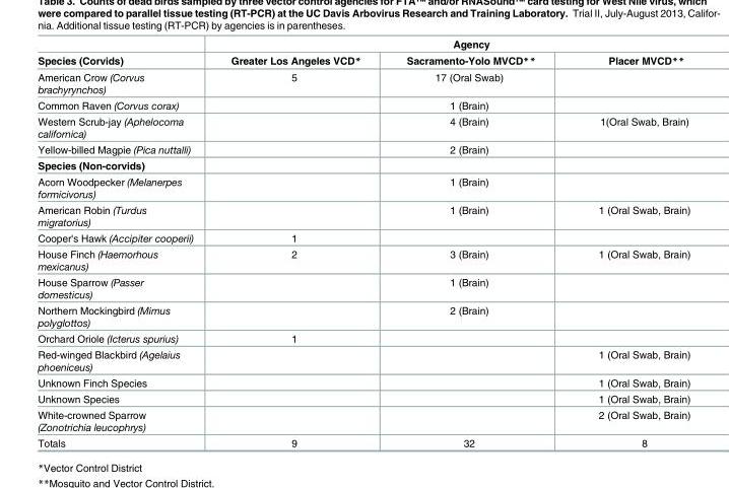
<table><thead><tr><td rowspan="2">Species (Corvids)</td><td colspan="3">Agency</td></tr><tr><td>Greater Los Angeles VCD*</td><td>Sacramento-Yolo MVCD**</td><td>Placer MVCD**</td></tr></thead><tbody><tr><td>American Crow (Corvus brachyrynchos)</td><td>5</td><td>17 (Oral Swab)</td><td></td></tr><tr><td>Common Raven (Corvus corax)</td><td></td><td>1 (Brain)</td><td></td></tr><tr><td>Western Scrub-jay (Aphelocoma californica)</td><td></td><td>4 (Brain)</td><td>1(Oral Swab, Brain)</td></tr><tr><td>Yellow-billed Magpie (Pica nuttalli)</td><td></td><td>2 (Brain)</td><td></td></tr><tr><td colspan="4">Species (Non-corvids)</td></tr><tr><td>Acorn Woodpecker (Melanerpes formicivorus)</td><td></td><td>1 (Brain)</td><td></td></tr><tr><td>American Robin (Turdus migratorius)</td><td></td><td>1 (Brain)</td><td>1 (Oral Swab, Brain)</td></tr><tr><td>Cooper&#x27;s Hawk (Accipiter cooperii)</td><td>1</td><td></td><td></td></tr><tr><td>House Finch (Haemorhous mexicanus)</td><td>2</td><td>3 (Brain)</td><td>1 (Oral Swab, Brain)</td></tr><tr><td>House Sparrow (Passer domesticus)</td><td></td><td>1 (Brain)</td><td></td></tr><tr><td>Northern Mockingbird (Mimus polyglottos)</td><td></td><td>2 (Brain)</td><td></td></tr><tr><td>Orchard Oriole (Icterus spurius)</td><td>1</td><td></td><td></td></tr><tr><td>Red-winged Blackbird (Agelaius phoeniceus)</td><td></td><td></td><td>1 (Oral Swab, Brain)</td></tr><tr><td>Unknown Finch Species</td><td></td><td></td><td>1 (Oral Swab, Brain)</td></tr><tr><td>Unknown Species</td><td></td><td></td><td>1 (Oral Swab, Brain)</td></tr><tr><td>White-crowned Sparrow (Zonotrichia leucophrys)</td><td></td><td></td><td>2 (Oral Swab, Brain)</td></tr><tr><td>Totals</td><td>9</td><td>32</td><td>8</td></tr></tbody></table>